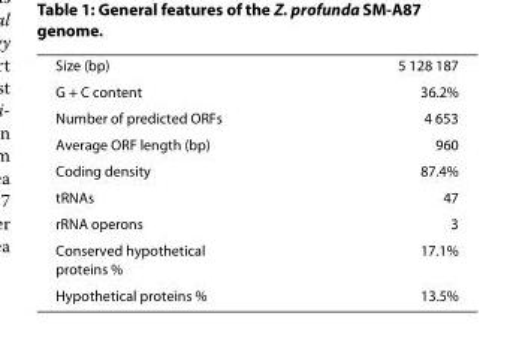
<table><tbody><tr><td>Size (bp)</td><td>5 128 187</td></tr><tr><td>G + C content</td><td>36.2%</td></tr><tr><td>Number of predicted ORFs</td><td>4 653</td></tr><tr><td>Average ORF length (bp)</td><td>960</td></tr><tr><td>Coding density</td><td>87.4%</td></tr><tr><td>tRNAs</td><td>47</td></tr><tr><td>rRNA operons</td><td>3</td></tr><tr><td>Conserved hypothetical proteins %</td><td>17.1%</td></tr><tr><td>Hypothetical proteins %</td><td>13.5%</td></tr></tbody></table>